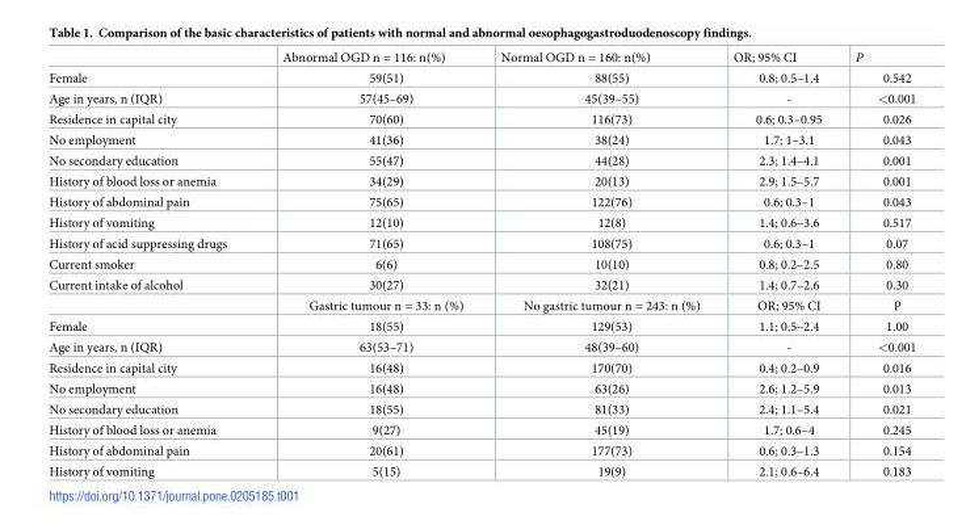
<table><thead><tr><td></td><td>Abnormal OGD n = 116: n(%)</td><td>Normal OGD n = 160: n(%)</td><td>OR; 95% CI</td><td>P</td></tr></thead><tbody><tr><td>Female</td><td>59(51)</td><td>88(55)</td><td>0.8; 0.5–1.4</td><td>0.542</td></tr><tr><td>Age in years, n (IQR)</td><td>57(45–69)</td><td>45(39–55)</td><td>-</td><td>&lt;0.001</td></tr><tr><td>Residence in capital city</td><td>70(60)</td><td>116(73)</td><td>0.6; 0.3–0.95</td><td>0.026</td></tr><tr><td>No employment</td><td>41(36)</td><td>38(24)</td><td>1.7; 1–3.1</td><td>0.043</td></tr><tr><td>No secondary education</td><td>55(47)</td><td>44(28)</td><td>2.3; 1.4–4.1</td><td>0.001</td></tr><tr><td>History of blood loss or anemia</td><td>34(29)</td><td>20(13)</td><td>2.9; 1.5–5.7</td><td>0.001</td></tr><tr><td>History of abdominal pain</td><td>75(65)</td><td>122(76)</td><td>0.6; 0.3–1</td><td>0.043</td></tr><tr><td>History of vomiting</td><td>12(10)</td><td>12(8)</td><td>1.4; 0.6–3.6</td><td>0.517</td></tr><tr><td>History of acid suppressing drugs</td><td>71(65)</td><td>108(75)</td><td>0.6; 0.3–1</td><td>0.07</td></tr><tr><td>Current smoker</td><td>6(6)</td><td>10(10)</td><td>0.8; 0.2–2.5</td><td>0.80</td></tr><tr><td rowspan="2">Current intake of alcohol</td><td>30(27)</td><td>32(21)</td><td>1.4; 0.7–2.6</td><td>0.30</td></tr><tr><td>Gastric tumour n = 33: n (%)</td><td>No gastric tumour n = 243: n (%)</td><td>OR; 95% CI</td><td>P</td></tr><tr><td>Female</td><td>18(55)</td><td>129(53)</td><td>1.1; 0.5–2.4</td><td>1.00</td></tr><tr><td>Age in years, n (IQR)</td><td>63(53–71)</td><td>48(39–60)</td><td>-</td><td>&lt;0.001</td></tr><tr><td>Residence in capital city</td><td>16(48)</td><td>170(70)</td><td>0.4; 0.2–0.9</td><td>0.016</td></tr><tr><td>No employment</td><td>16(48)</td><td>63(26)</td><td>2.6; 1.2–5.9</td><td>0.013</td></tr><tr><td>No secondary education</td><td>18(55)</td><td>81(33)</td><td>2.4; 1.1–5.4</td><td>0.021</td></tr><tr><td>History of blood loss or anemia</td><td>9(27)</td><td>45(19)</td><td>1.7; 0.6–4</td><td>0.245</td></tr><tr><td>History of abdominal pain</td><td>20(61)</td><td>177(73)</td><td>0.6; 0.3–1.3</td><td>0.154</td></tr><tr><td>History of vomiting</td><td>5(15)</td><td>19(9)</td><td>2.1; 0.6–6.4</td><td>0.183</td></tr></tbody></table>